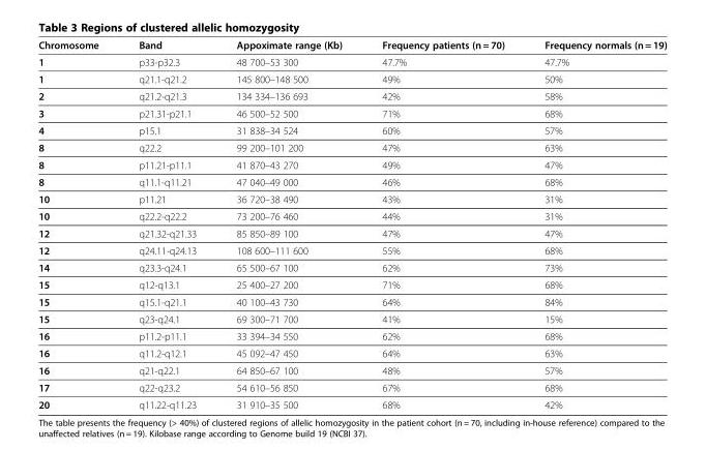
<table><thead><tr><td>Chromosome</td><td>Band</td><td>Appoximate range (Kb)</td><td>Frequency patients (n = 70)</td><td>Frequency normals (n = 19)</td></tr></thead><tbody><tr><td>1</td><td>p33-p32.3</td><td>48 700–53 300</td><td>47.7%</td><td>47.7%</td></tr><tr><td>1</td><td>q21.1-q21.2</td><td>145 800–148 500</td><td>49%</td><td>50%</td></tr><tr><td>2</td><td>q21.2-q21.3</td><td>134 334–136 693</td><td>42%</td><td>58%</td></tr><tr><td>3</td><td>p21.31-p21.1</td><td>46 500–52 500</td><td>71%</td><td>68%</td></tr><tr><td>4</td><td>p15.1</td><td>31 838–34 524</td><td>60%</td><td>57%</td></tr><tr><td>8</td><td>q22.2</td><td>99 200–101 200</td><td>47%</td><td>63%</td></tr><tr><td>8</td><td>p11.21-p11.1</td><td>41 870–43 270</td><td>49%</td><td>47%</td></tr><tr><td>8</td><td>q11.1-q11.21</td><td>47 040–49 000</td><td>46%</td><td>68%</td></tr><tr><td>10</td><td>p11.21</td><td>36 720–38 490</td><td>43%</td><td>31%</td></tr><tr><td>10</td><td>q22.2-q22.2</td><td>73 200–76 460</td><td>44%</td><td>31%</td></tr><tr><td>12</td><td>q21.32-q21.33</td><td>85 850–89 100</td><td>47%</td><td>47%</td></tr><tr><td>12</td><td>q24.11-q24.13</td><td>108 600–111 600</td><td>55%</td><td>68%</td></tr><tr><td>14</td><td>q23.3-q24.1</td><td>65 500–67 100</td><td>62%</td><td>73%</td></tr><tr><td>15</td><td>q12-q13.1</td><td>25 400–27 200</td><td>71%</td><td>68%</td></tr><tr><td>15</td><td>q15.1-q21.1</td><td>40 100–43 730</td><td>64%</td><td>84%</td></tr><tr><td>15</td><td>q23-q24.1</td><td>69 300–71 700</td><td>41%</td><td>15%</td></tr><tr><td>16</td><td>p11.2-p11.1</td><td>33 394–34 550</td><td>62%</td><td>68%</td></tr><tr><td>16</td><td>q11.2-q12.1</td><td>45 092–47 450</td><td>64%</td><td>63%</td></tr><tr><td>16</td><td>q21-q22.1</td><td>64 850–67 100</td><td>48%</td><td>57%</td></tr><tr><td>17</td><td>q22-q23.2</td><td>54 610–56 850</td><td>67%</td><td>68%</td></tr><tr><td>20</td><td>q11.22-q11.23</td><td>31 910–35 500</td><td>68%</td><td>42%</td></tr></tbody></table>